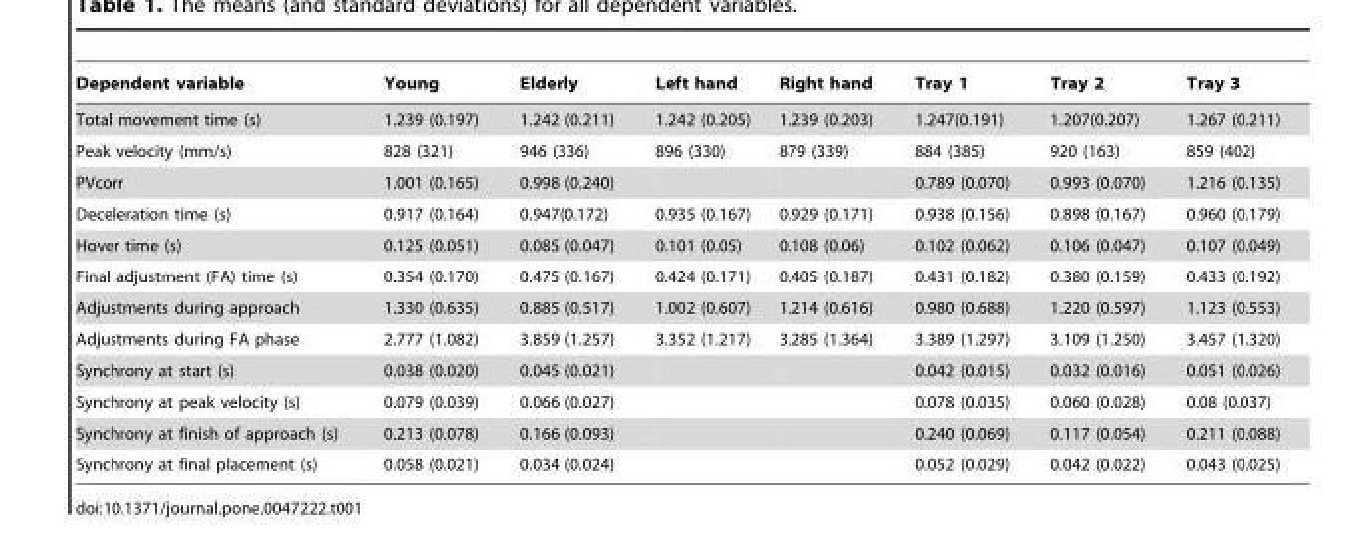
<table><thead><tr><td>Dependent variable</td><td>Young</td><td>Elderly</td><td>Left hand</td><td>Right hand</td><td>Tray 1</td><td>Tray 2</td><td>Tray 3</td></tr></thead><tbody><tr><td>Total movement time (s)</td><td>1.239 (0.197)</td><td>1.242 (0.211)</td><td>1.242 (0.205)</td><td>1.239 (0.203)</td><td>1.247(0.191)</td><td>1.207(0.207)</td><td>1.267 (0.211)</td></tr><tr><td>Peak velocity (mm/s)</td><td>828 (321)</td><td>946 (336)</td><td>896 (330)</td><td>879 (339)</td><td>884 (385)</td><td>920 (163)</td><td>859 (402)</td></tr><tr><td>PVcorr</td><td>1.001 (0.165)</td><td>0.998 (0.240)</td><td></td><td></td><td>0.789 (0.070)</td><td>0.993 (0.070)</td><td>1.216 (0.135)</td></tr><tr><td>Deceleration time (s)</td><td>0.917 (0.164)</td><td>0.947(0.172)</td><td>0.935 (0.167)</td><td>0.929 (0.171)</td><td>0.938 (0.156)</td><td>0.898 (0.167)</td><td>0.960 (0.179)</td></tr><tr><td>Hover time (s)</td><td>0.125 (0.051)</td><td>0.085 (0.047)</td><td>0.101 (0.05)</td><td>0.108 (0.06)</td><td>0.102 (0.062)</td><td>0.106 (0.047)</td><td>0.107 (0.049)</td></tr><tr><td>Final adjustment (FA) time (s)</td><td>0.354 (0.170)</td><td>0.475 (0.167)</td><td>0.424 (0.171)</td><td>0.405 (0.187)</td><td>0.431 (0.182)</td><td>0.380 (0.159)</td><td>0.433 (0.192)</td></tr><tr><td>Adjustments during approach</td><td>1.330 (0.635)</td><td>0.885 (0.517)</td><td>1.002 (0.607)</td><td>1.214 (0.616)</td><td>0.980 (0.688)</td><td>1.220 (0.597)</td><td>1.123 (0.553)</td></tr><tr><td>Adjustments during FA phase</td><td>2.777 (1.082)</td><td>3.859 (1.257)</td><td>3.352 (1.217)</td><td>3.285 (1.364)</td><td>3.389 (1.297)</td><td>3.109 (1.250)</td><td>3.457 (1.320)</td></tr><tr><td>Synchrony at start (s)</td><td>0.038 (0.020)</td><td>0.045 (0.021)</td><td></td><td></td><td>0.042 (0.015)</td><td>0.032 (0.016)</td><td>0.051 (0.026)</td></tr><tr><td>Synchrony at peak velocity (s)</td><td>0.079 (0.039)</td><td>0.066 (0.027)</td><td></td><td></td><td>0.078 (0.035)</td><td>0.060 (0.028)</td><td>0.08 (0.037)</td></tr><tr><td>Synchrony at finish of approach (s)</td><td>0.213 (0.078)</td><td>0.166 (0.093)</td><td></td><td></td><td>0.240 (0.069)</td><td>0.117 (0.054)</td><td>0.211 (0.088)</td></tr><tr><td>Synchrony at final placement (s)</td><td>0.058 (0.021)</td><td>0.034 (0.024)</td><td></td><td></td><td>0.052 (0.029)</td><td>0.042 (0.022)</td><td>0.043 (0.025)</td></tr></tbody></table>